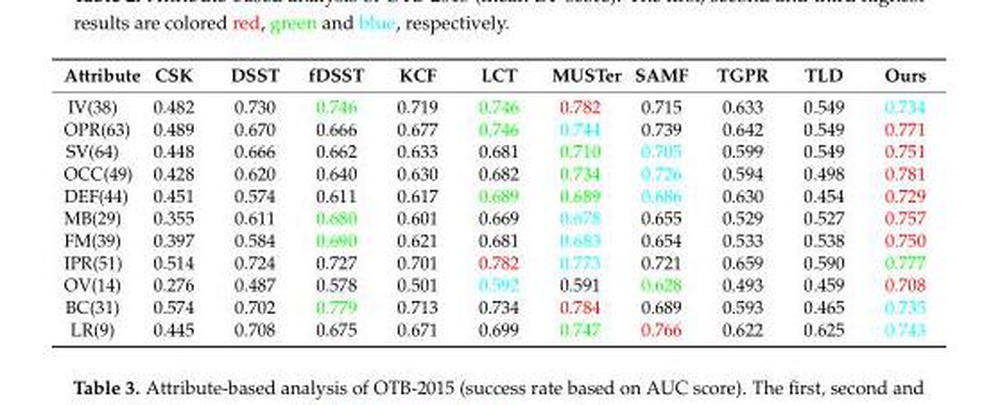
<table><thead><tr><td>Attribute</td><td>CSK</td><td>DSST</td><td>fDSST</td><td>KCF</td><td>LCT</td><td>MUSTer</td><td>SAMF</td><td>TGPR</td><td>TLD</td><td>Ours</td></tr></thead><tbody><tr><td>IV(38)</td><td>0.482</td><td>0.730</td><td>0.746</td><td>0.719</td><td>0.746</td><td>0.782</td><td>0.715</td><td>0.633</td><td>0.549</td><td>0.734</td></tr><tr><td>OPR(63)</td><td>0.489</td><td>0.670</td><td>0.666</td><td>0.677</td><td>0.746</td><td>0.744</td><td>0.739</td><td>0.642</td><td>0.549</td><td>0.771</td></tr><tr><td>SV(64)</td><td>0.448</td><td>0.666</td><td>0.662</td><td>0.633</td><td>0.681</td><td>0.710</td><td>0.705</td><td>0.599</td><td>0.549</td><td>0.751</td></tr><tr><td>OCC(49)</td><td>0.428</td><td>0.620</td><td>0.640</td><td>0.630</td><td>0.682</td><td>0.734</td><td>0.726</td><td>0.594</td><td>0.498</td><td>0.781</td></tr><tr><td>DEF(44)</td><td>0.451</td><td>0.574</td><td>0.611</td><td>0.617</td><td>0.689</td><td>0.689</td><td>0.686</td><td>0.630</td><td>0.454</td><td>0.729</td></tr><tr><td>MB(29)</td><td>0.355</td><td>0.611</td><td>0.680</td><td>0.601</td><td>0.669</td><td>0.678</td><td>0.655</td><td>0.529</td><td>0.527</td><td>0.757</td></tr><tr><td>FM(39)</td><td>0.397</td><td>0.584</td><td>0.690</td><td>0.621</td><td>0.681</td><td>0.683</td><td>0.654</td><td>0.533</td><td>0.538</td><td>0.750</td></tr><tr><td>IPR(51)</td><td>0.514</td><td>0.724</td><td>0.727</td><td>0.701</td><td>0.782</td><td>0.773</td><td>0.721</td><td>0.659</td><td>0.590</td><td>0.777</td></tr><tr><td>OV(14)</td><td>0.276</td><td>0.487</td><td>0.578</td><td>0.501</td><td>0.592</td><td>0.591</td><td>0.628</td><td>0.493</td><td>0.459</td><td>0.708</td></tr><tr><td>BC(31)</td><td>0.574</td><td>0.702</td><td>0.779</td><td>0.713</td><td>0.734</td><td>0.784</td><td>0.689</td><td>0.593</td><td>0.465</td><td>0.735</td></tr><tr><td>LR(9)</td><td>0.445</td><td>0.708</td><td>0.675</td><td>0.671</td><td>0.699</td><td>0.747</td><td>0.766</td><td>0.622</td><td>0.625</td><td>0.743</td></tr></tbody></table>